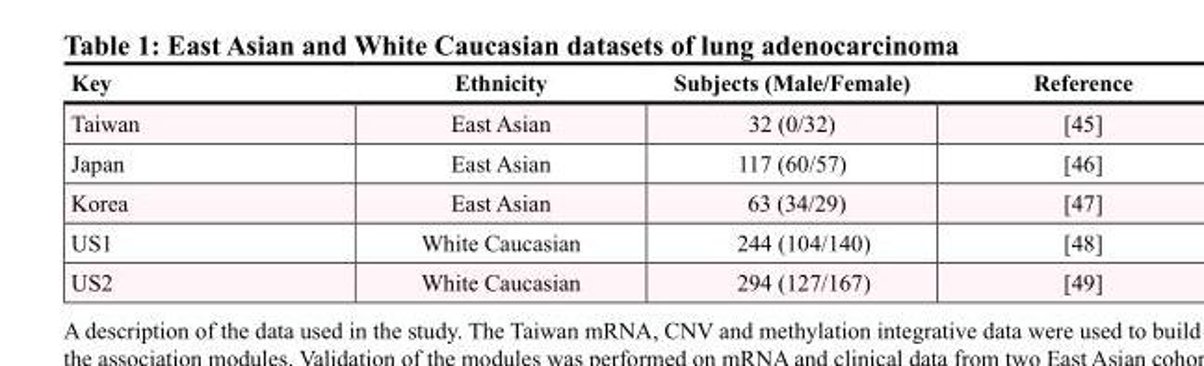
<table><thead><tr><td>Key</td><td>Ethnicity</td><td>Subjects (Male/Female)</td><td>Reference</td></tr></thead><tbody><tr><td>Taiwan</td><td>East Asian</td><td>32 (0/32)</td><td>[45]</td></tr><tr><td>Japan</td><td>East Asian</td><td>117 (60/57)</td><td>[46]</td></tr><tr><td>Korea</td><td>East Asian</td><td>63 (34/29)</td><td>[47]</td></tr><tr><td>US1</td><td>White Caucasian</td><td>244 (104/140)</td><td>[48]</td></tr><tr><td>US2</td><td>White Caucasian</td><td>294 (127/167)</td><td>[49]</td></tr></tbody></table>